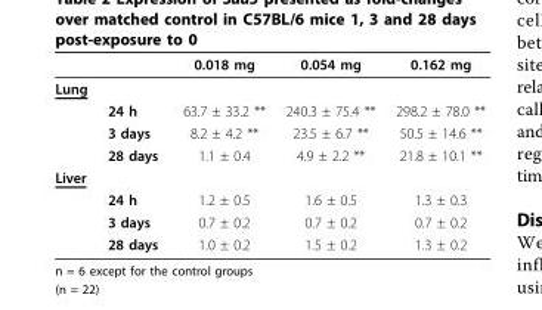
<table><thead><tr><td></td><td></td><td>0.018 mg</td><td>0.054 mg</td><td>0.162 mg</td></tr></thead><tbody><tr><td colspan="5">Lung</td></tr><tr><td></td><td>24 h</td><td>63.7 ± 33.2 **</td><td>240.3 ± 75.4 **</td><td>298.2 ± 78.0 **</td></tr><tr><td></td><td>3 days</td><td>8.2 ± 4.2 **</td><td>23.5 ± 6.7 **</td><td>50.5 ± 14.6 **</td></tr><tr><td></td><td>28 days</td><td>1.1 ± 0.4</td><td>4.9 ± 2.2 **</td><td>21.8 ± 10.1 **</td></tr><tr><td colspan="5">Liver</td></tr><tr><td></td><td>24 h</td><td>1.2 ± 0.5</td><td>1.6 ± 0.5</td><td>1.3 ± 0.3</td></tr><tr><td></td><td>3 days</td><td>0.7 ± 0.2</td><td>0.7 ± 0.2</td><td>0.7 ± 0.2</td></tr><tr><td></td><td>28 days</td><td>1.0 ± 0.2</td><td>1.5 ± 0.2</td><td>1.3 ± 0.2</td></tr></tbody></table>